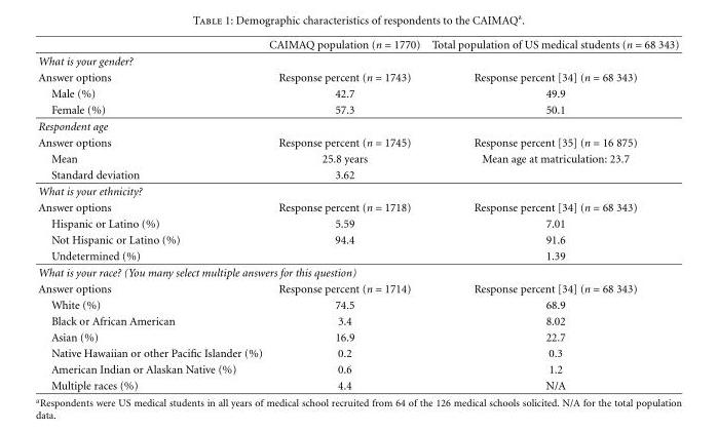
<table><thead><tr><td></td><td>CAIMAQ population (n = 1770)</td><td>Total population of US medical students (n = 68 343)</td></tr></thead><tbody><tr><td colspan="3">What is your gender?</td></tr><tr><td>Answer options</td><td>Response percent (n = 1743)</td><td>Response percent [34] (n = 68 343)</td></tr><tr><td>Male (%)</td><td>42.7</td><td>49.9</td></tr><tr><td>Female (%)</td><td>57.3</td><td>50.1</td></tr><tr><td colspan="3">Respondent age</td></tr><tr><td>Answer options</td><td>Response percent (n = 1745)</td><td>Response percent [35] (n = 16 875)</td></tr><tr><td>Mean</td><td>25.8 years</td><td>Mean age at matriculation: 23.7</td></tr><tr><td>Standard deviation</td><td>3.62</td><td></td></tr><tr><td colspan="3">What is your ethnicity?</td></tr><tr><td>Answer options</td><td>Response percent (n = 1718)</td><td>Response percent [34] (n = 68 343)</td></tr><tr><td>Hispanic or Latino (%)</td><td>5.59</td><td>7.01</td></tr><tr><td>Not Hispanic or Latino (%)</td><td>94.4</td><td>91.6</td></tr><tr><td>Undetermined (%)</td><td></td><td>1.39</td></tr><tr><td colspan="3">What is your race? (You many select multiple answers for this question)</td></tr><tr><td>Answer options</td><td>Response percent (n = 1714)</td><td>Response percent [34] (n = 68 343)</td></tr><tr><td>White (%)</td><td>74.5</td><td>68.9</td></tr><tr><td>Black or African American</td><td>3.4</td><td>8.02</td></tr><tr><td>Asian (%)</td><td>16.9</td><td>22.7</td></tr><tr><td>Native Hawaiian or other Pacific Islander (%)</td><td>0.2</td><td>0.3</td></tr><tr><td>American Indian or Alaskan Native (%)</td><td>0.6</td><td>1.2</td></tr><tr><td>Multiple races (%)</td><td>4.4</td><td>N/A</td></tr></tbody></table>